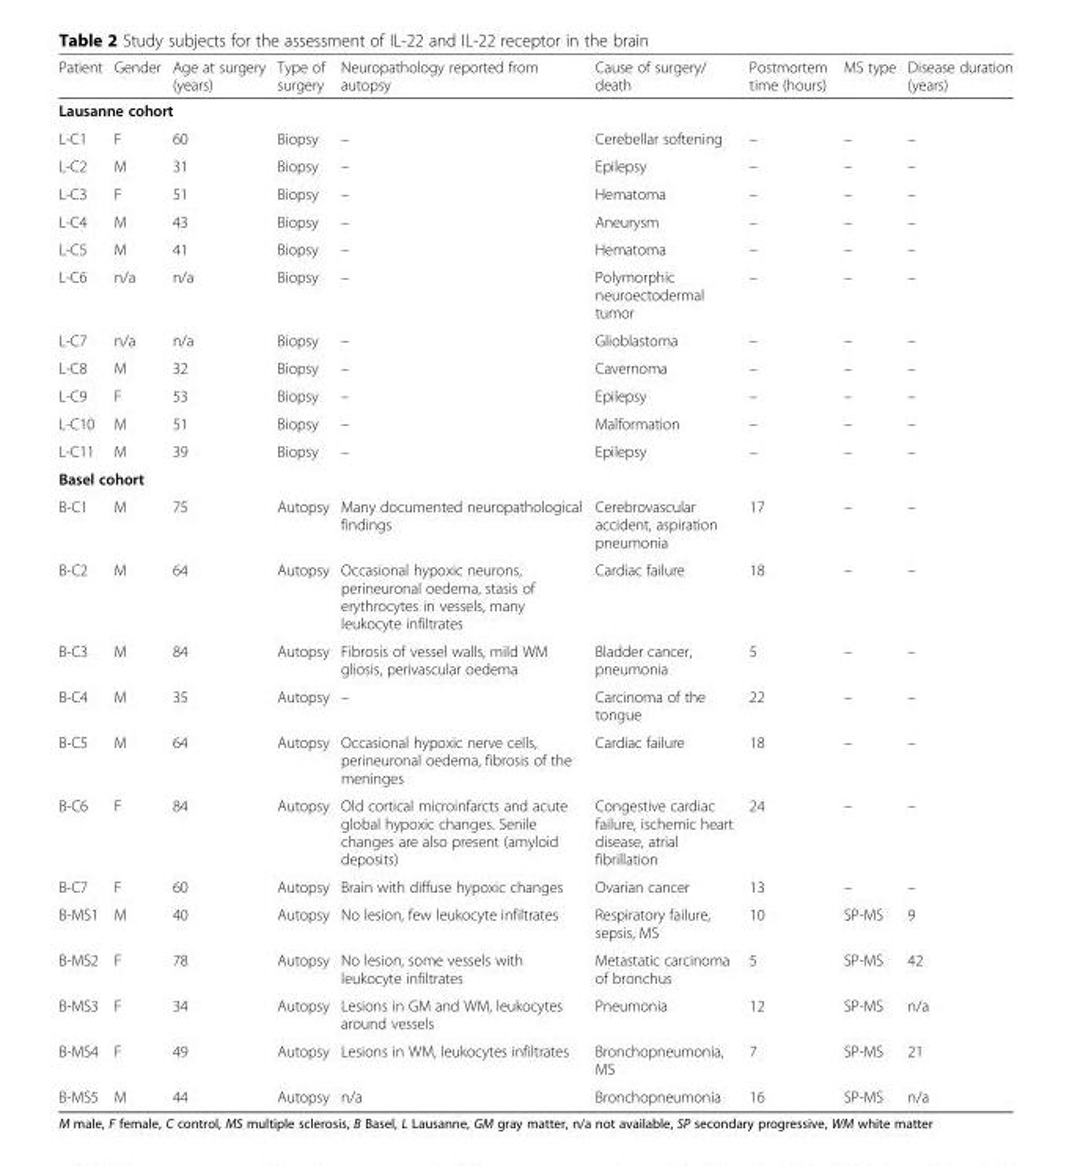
<table><thead><tr><td>Patient</td><td>Gender</td><td>Age at surgery (years)</td><td>Type of surgery</td><td>Neuropathology reported from autopsy</td><td>Cause of surgery/ death</td><td>Postmortem time (hours)</td><td>MS type</td><td>Disease duration (years)</td></tr></thead><tbody><tr><td colspan="9">Lausanne cohort</td></tr><tr><td>L-C1</td><td>F</td><td>60</td><td>Biopsy</td><td>–</td><td>Cerebellar softening</td><td>–</td><td>–</td><td>–</td></tr><tr><td>L-C2</td><td>M</td><td>31</td><td>Biopsy</td><td>–</td><td>Epilepsy</td><td>–</td><td>–</td><td>–</td></tr><tr><td>L-C3</td><td>F</td><td>51</td><td>Biopsy</td><td>–</td><td>Hematoma</td><td>–</td><td>–</td><td>–</td></tr><tr><td>L-C4</td><td>M</td><td>43</td><td>Biopsy</td><td>–</td><td>Aneurysm</td><td>–</td><td>–</td><td>–</td></tr><tr><td>L-C5</td><td>M</td><td>41</td><td>Biopsy</td><td>–</td><td>Hematoma</td><td>–</td><td>–</td><td>–</td></tr><tr><td>L-C6</td><td>n/a</td><td>n/a</td><td>Biopsy</td><td>–</td><td>Polymorphic neuroectodermal tumor</td><td>–</td><td>–</td><td>–</td></tr><tr><td>L-C7</td><td>n/a</td><td>n/a</td><td>Biopsy</td><td>–</td><td>Glioblastoma</td><td>–</td><td>–</td><td>–</td></tr><tr><td>L-C8</td><td>M</td><td>32</td><td>Biopsy</td><td>–</td><td>Cavernoma</td><td>–</td><td>–</td><td>–</td></tr><tr><td>L-C9</td><td>F</td><td>53</td><td>Biopsy</td><td>–</td><td>Epilepsy</td><td>–</td><td>–</td><td>–</td></tr><tr><td>L-C10</td><td>M</td><td>51</td><td>Biopsy</td><td>–</td><td>Malformation</td><td>–</td><td>–</td><td>–</td></tr><tr><td>L-C11</td><td>M</td><td>39</td><td>Biopsy</td><td>–</td><td>Epilepsy</td><td>–</td><td>–</td><td>–</td></tr><tr><td colspan="9">Basel cohort</td></tr><tr><td>B-C1</td><td>M</td><td>75</td><td>Autopsy</td><td>Many documented neuropathological findings</td><td>Cerebrovascular accident, aspiration pneumonia</td><td>17</td><td>–</td><td>–</td></tr><tr><td>B-C2</td><td>M</td><td>64</td><td>Autopsy</td><td>Occasional hypoxic neurons, perineuronal oedema, stasis of erythrocytes in vessels, many leukocyte infiltrates</td><td>Cardiac failure</td><td>18</td><td>–</td><td>–</td></tr><tr><td>B-C3</td><td>M</td><td>84</td><td>Autopsy</td><td>Fibrosis of vessel walls, mild WM gliosis, perivascular oedema</td><td>Bladder cancer, pneumonia</td><td>5</td><td>–</td><td>–</td></tr><tr><td>B-C4</td><td>M</td><td>35</td><td>Autopsy</td><td>–</td><td>Carcinoma of the tongue</td><td>22</td><td>–</td><td>–</td></tr><tr><td>B-C5</td><td>M</td><td>64</td><td>Autopsy</td><td>Occasional hypoxic nerve cells, perineuronal oedema, fibrosis of the meninges</td><td>Cardiac failure</td><td>18</td><td>–</td><td>–</td></tr><tr><td>B-C6</td><td>F</td><td>84</td><td>Autopsy</td><td>Old cortical microinfarcts and acute global hypoxic changes. Senile changes are also present (amyloid deposits)</td><td>Congestive cardiac failure, ischemic heart disease, atrial fibrillation</td><td>24</td><td>–</td><td>–</td></tr><tr><td>B-C7</td><td>F</td><td>60</td><td>Autopsy</td><td>Brain with diffuse hypoxic changes</td><td>Ovarian cancer</td><td>13</td><td>–</td><td>–</td></tr><tr><td>B-MS1</td><td>M</td><td>40</td><td>Autopsy</td><td>No lesion, few leukocyte infiltrates</td><td>Respiratory failure, sepsis, MS</td><td>10</td><td>SP-MS</td><td>9</td></tr><tr><td>B-MS2</td><td>F</td><td>78</td><td>Autopsy</td><td>No lesion, some vessels with leukocyte infiltrates</td><td>Metastatic carcinoma of bronchus</td><td>5</td><td>SP-MS</td><td>42</td></tr><tr><td>B-MS3</td><td>F</td><td>34</td><td>Autopsy</td><td>Lesions in GM and WM, leukocytes around vessels</td><td>Pneumonia</td><td>12</td><td>SP-MS</td><td>n/a</td></tr><tr><td>B-MS4</td><td>F</td><td>49</td><td>Autopsy</td><td>Lesions in WM, leukocytes infiltrates</td><td>Bronchopneumonia, MS</td><td>7</td><td>SP-MS</td><td>21</td></tr><tr><td>B-MS5</td><td>M</td><td>44</td><td>Autopsy</td><td>n/a</td><td>Bronchopneumonia</td><td>16</td><td>SP-MS</td><td>n/a</td></tr></tbody></table>